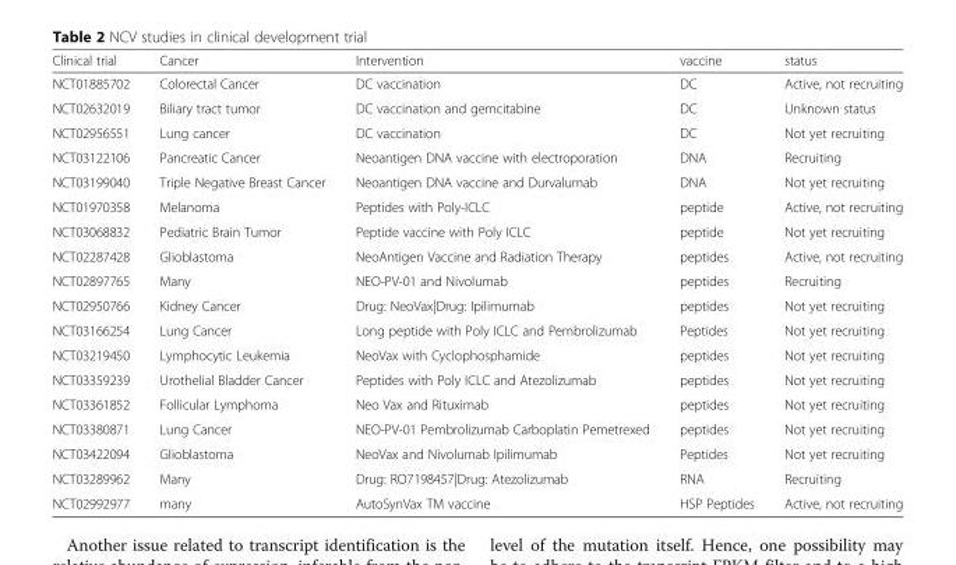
<table><thead><tr><td>Clinical trial</td><td>Cancer</td><td>Intervention</td><td>vaccine</td><td>status</td></tr></thead><tbody><tr><td>NCT01885702</td><td>Colorectal Cancer</td><td>DC vaccination</td><td>DC</td><td>Active, not recruiting</td></tr><tr><td>NCT02632019</td><td>Biliary tract tumor</td><td>DC vaccination and gemcitabine</td><td>DC</td><td>Unknown status</td></tr><tr><td>NCT02956551</td><td>Lung cancer</td><td>DC vaccination</td><td>DC</td><td>Not yet recruiting</td></tr><tr><td>NCT03122106</td><td>Pancreatic Cancer</td><td>Neoantigen DNA vaccine with electroporation</td><td>DNA</td><td>Recruiting</td></tr><tr><td>NCT03199040</td><td>Triple Negative Breast Cancer</td><td>Neoantigen DNA vaccine and Durvalumab</td><td>DNA</td><td>Not yet recruiting</td></tr><tr><td>NCT01970358</td><td>Melanoma</td><td>Peptides with Poly-ICLC</td><td>peptide</td><td>Active, not recruiting</td></tr><tr><td>NCT03068832</td><td>Pediatric Brain Tumor</td><td>Peptide vaccine with Poly ICLC</td><td>peptide</td><td>Not yet recruiting</td></tr><tr><td>NCT02287428</td><td>Glioblastoma</td><td>NeoAntigen Vaccine and Radiation Therapy</td><td>peptides</td><td>Active, not recruiting</td></tr><tr><td>NCT02897765</td><td>Many</td><td>NEO-PV-01 and Nivolumab</td><td>peptides</td><td>Recruiting</td></tr><tr><td>NCT02950766</td><td>Kidney Cancer</td><td>Drug: NeoVax|Drug: Ipilimumab</td><td>peptides</td><td>Not yet recruiting</td></tr><tr><td>NCT03166254</td><td>Lung Cancer</td><td>Long peptide with Poly ICLC and Pembrolizumab</td><td>Peptides</td><td>Not yet recruiting</td></tr><tr><td>NCT03219450</td><td>Lymphocytic Leukemia</td><td>NeoVax with Cyclophosphamide</td><td>peptides</td><td>Not yet recruiting</td></tr><tr><td>NCT03359239</td><td>Urothelial Bladder Cancer</td><td>Peptides with Poly ICLC and Atezolizumab</td><td>peptides</td><td>Not yet recruiting</td></tr><tr><td>NCT03361852</td><td>Follicular Lymphoma</td><td>Neo Vax and Rituximab</td><td>peptides</td><td>Not yet recruiting</td></tr><tr><td>NCT03380871</td><td>Lung Cancer</td><td>NEO-PV-01 Pembrolizumab Carboplatin Pemetrexed</td><td>peptides</td><td>Not yet recruiting</td></tr><tr><td>NCT03422094</td><td>Glioblastoma</td><td>NeoVax and Nivolumab Ipilimumab</td><td>Peptides</td><td>Not yet recruiting</td></tr><tr><td>NCT03289962</td><td>Many</td><td>Drug: RO7198457|Drug: Atezolizumab</td><td>RNA</td><td>Recruiting</td></tr><tr><td>NCT02992977</td><td>many</td><td>AutoSynVax TM vaccine</td><td>HSP Peptides</td><td>Active, not recruiting</td></tr></tbody></table>